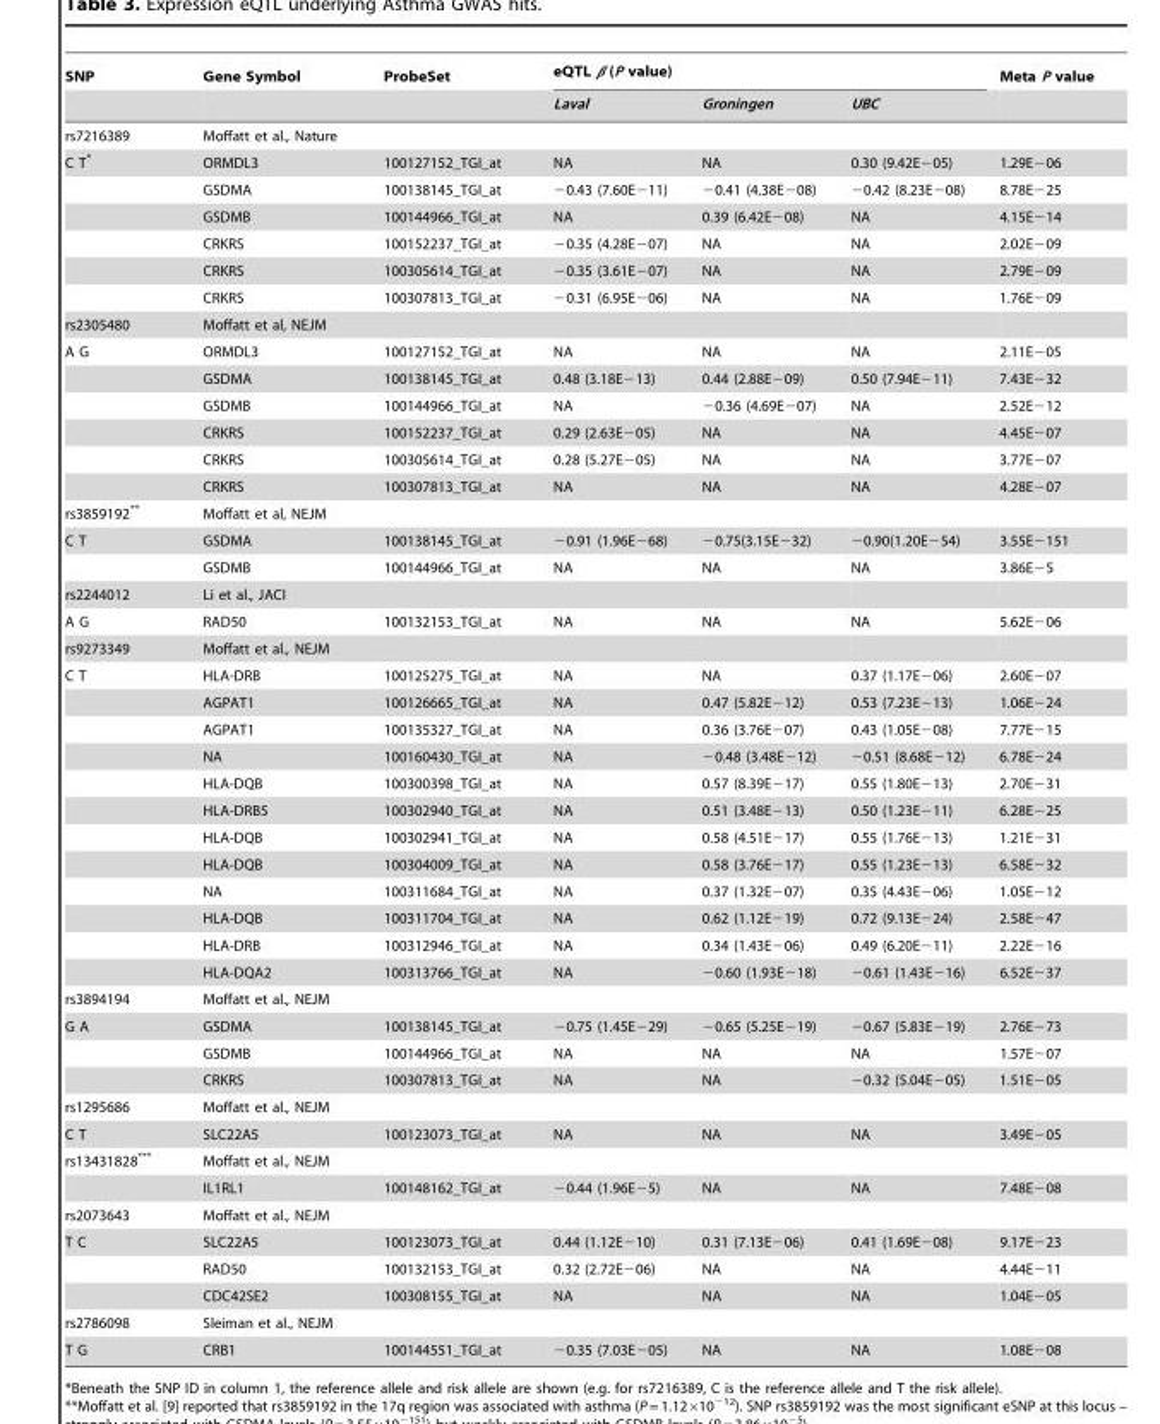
<table><thead><tr><td rowspan="2">SNP</td><td rowspan="2">Gene Symbol</td><td rowspan="2">ProbeSet</td><td colspan="3">eQTL β (P value)</td><td rowspan="2">Meta P value</td></tr><tr><td>Laval</td><td>Groningen</td><td>UBC</td></tr></thead><tbody><tr><td>rs7216389</td><td>Moffatt et al., Nature</td><td></td><td></td><td></td><td></td><td></td></tr><tr><td rowspan="6">C T*</td><td>ORMDL3</td><td>100127152_TGI_at</td><td>NA</td><td>NA</td><td>0.30 (9.42E−05)</td><td>1.29E−06</td></tr><tr><td>GSDMA</td><td>100138145_TGI_at</td><td>−0.43 (7.60E−11)</td><td>−0.41 (4.38E−08)</td><td>−0.42 (8.23E−08)</td><td>8.78E−25</td></tr><tr><td>GSDMB</td><td>100144966_TGI_at</td><td>NA</td><td>0.39 (6.42E−08)</td><td>NA</td><td>4.15E−14</td></tr><tr><td>CRKRS</td><td>100152237_TGI_at</td><td>−0.35 (4.28E−07)</td><td>NA</td><td>NA</td><td>2.02E−09</td></tr><tr><td>CRKRS</td><td>100305614_TGI_at</td><td>−0.35 (3.61E−07)</td><td>NA</td><td>NA</td><td>2.79E−09</td></tr><tr><td>CRKRS</td><td>100307813_TGI_at</td><td>−0.31 (6.95E−06)</td><td>NA</td><td>NA</td><td>1.76E−09</td></tr><tr><td>rs2305480</td><td>Moffatt et al, NEJM</td><td></td><td></td><td></td><td></td><td></td></tr><tr><td rowspan="6">A G</td><td>ORMDL3</td><td>100127152_TGI_at</td><td>NA</td><td>NA</td><td>NA</td><td>2.11E−05</td></tr><tr><td>GSDMA</td><td>100138145_TGI_at</td><td>0.48 (3.18E−13)</td><td>0.44 (2.88E−09)</td><td>0.50 (7.94E−11)</td><td>7.43E−32</td></tr><tr><td>GSDMB</td><td>100144966_TGI_at</td><td>NA</td><td>−0.36 (4.69E−07)</td><td>NA</td><td>2.52E−12</td></tr><tr><td>CRKRS</td><td>100152237_TGI_at</td><td>0.29 (2.63E−05)</td><td>NA</td><td>NA</td><td>4.45E−07</td></tr><tr><td>CRKRS</td><td>100305614_TGI_at</td><td>0.28 (5.27E−05)</td><td>NA</td><td>NA</td><td>3.77E−07</td></tr><tr><td>CRKRS</td><td>100307813_TGI_at</td><td>NA</td><td>NA</td><td>NA</td><td>4.28E−07</td></tr><tr><td>rs3859192**</td><td>Moffatt et al, NEJM</td><td></td><td></td><td></td><td></td><td></td></tr><tr><td rowspan="2">C T</td><td>GSDMA</td><td>100138145_TGI_at</td><td>−0.91 (1.96E−68)</td><td>−0.75(3.15E−32)</td><td>−0.90(1.20E−54)</td><td>3.55E−151</td></tr><tr><td>GSDMB</td><td>100144966_TGI_at</td><td>NA</td><td>NA</td><td>NA</td><td>3.86E−5</td></tr><tr><td>rs2244012</td><td>Li et al., JACI</td><td></td><td></td><td></td><td></td><td></td></tr><tr><td>A G</td><td>RAD50</td><td>100132153_TGI_at</td><td>NA</td><td>NA</td><td>NA</td><td>5.62E−06</td></tr><tr><td>rs9273349</td><td>Moffatt et al., NEJM</td><td></td><td></td><td></td><td></td><td></td></tr><tr><td rowspan="12">C T</td><td>HLA-DRB</td><td>100125275_TGI_at</td><td>NA</td><td>NA</td><td>0.37 (1.17E−06)</td><td>2.60E−07</td></tr><tr><td>AGPAT1</td><td>100126665_TGI_at</td><td>NA</td><td>0.47 (5.82E−12)</td><td>0.53 (7.23E−13)</td><td>1.06E−24</td></tr><tr><td>AGPAT1</td><td>100135327_TGI_at</td><td>NA</td><td>0.36 (3.76E−07)</td><td>0.43 (1.05E−08)</td><td>7.77E−15</td></tr><tr><td>NA</td><td>100160430_TGI_at</td><td>NA</td><td>−0.48 (3.48E−12)</td><td>−0.51 (8.68E−12)</td><td>6.78E−24</td></tr><tr><td>HLA-DQB</td><td>100300398_TGI_at</td><td>NA</td><td>0.57 (8.39E−17)</td><td>0.55 (1.80E−13)</td><td>2.70E−31</td></tr><tr><td>HLA-DRB5</td><td>100302940_TGI_at</td><td>NA</td><td>0.51 (3.48E−13)</td><td>0.50 (1.23E−11)</td><td>6.28E−25</td></tr><tr><td>HLA-DQB</td><td>100302941_TGI_at</td><td>NA</td><td>0.58 (4.51E−17)</td><td>0.55 (1.76E−13)</td><td>1.21E−31</td></tr><tr><td>HLA-DQB</td><td>100304009_TGI_at</td><td>NA</td><td>0.58 (3.76E−17)</td><td>0.55 (1.23E−13)</td><td>6.58E−32</td></tr><tr><td>NA</td><td>100311684_TGI_at</td><td>NA</td><td>0.37 (1.32E−07)</td><td>0.35 (4.43E−06)</td><td>1.05E−12</td></tr><tr><td>HLA-DQB</td><td>100311704_TGI_at</td><td>NA</td><td>0.62 (1.12E−19)</td><td>0.72 (9.13E−24)</td><td>2.58E−47</td></tr><tr><td>HLA-DRB</td><td>100312946_TGI_at</td><td>NA</td><td>0.34 (1.43E−06)</td><td>0.49 (6.20E−11)</td><td>2.22E−16</td></tr><tr><td>HLA-DQA2</td><td>100313766_TGI_at</td><td>NA</td><td>−0.60 (1.93E−18)</td><td>−0.61 (1.43E−16)</td><td>6.52E−37</td></tr><tr><td>rs3894194</td><td>Moffatt et al., NEJM</td><td></td><td></td><td></td><td></td><td></td></tr><tr><td rowspan="3">G A</td><td>GSDMA</td><td>100138145_TGI_at</td><td>−0.75 (1.45E−29)</td><td>−0.65 (5.25E−19)</td><td>−0.67 (5.83E−19)</td><td>2.76E−73</td></tr><tr><td>GSDMB</td><td>100144966_TGI_at</td><td>NA</td><td>NA</td><td>NA</td><td>1.57E−07</td></tr><tr><td>CRKRS</td><td>100307813_TGI_at</td><td>NA</td><td>NA</td><td>−0.32 (5.04E−05)</td><td>1.51E−05</td></tr><tr><td>rs1295686</td><td>Moffatt et al., NEJM</td><td></td><td></td><td></td><td></td><td></td></tr><tr><td>C T</td><td>SLC22A5</td><td>100123073_TGI_at</td><td>NA</td><td>NA</td><td>NA</td><td>3.49E−05</td></tr><tr><td rowspan="2">rs13431828***</td><td>Moffatt et al., NEJM</td><td></td><td></td><td></td><td></td><td></td></tr><tr><td>IL1RL1</td><td>100148162_TGI_at</td><td>−0.44 (1.96E−5)</td><td>NA</td><td>NA</td><td>7.48E−08</td></tr><tr><td>rs2073643</td><td>Moffatt et al., NEJM</td><td></td><td></td><td></td><td></td><td></td></tr><tr><td rowspan="3">T C</td><td>SLC22A5</td><td>100123073_TGI_at</td><td>0.44 (1.12E−10)</td><td>0.31 (7.13E−06)</td><td>0.41 (1.69E−08)</td><td>9.17E−23</td></tr><tr><td>RAD50</td><td>100132153_TGI_at</td><td>0.32 (2.72E−06)</td><td>NA</td><td>NA</td><td>4.44E−11</td></tr><tr><td>CDC42SE2</td><td>100308155_TGI_at</td><td>NA</td><td>NA</td><td>NA</td><td>1.04E−05</td></tr><tr><td>rs2786098</td><td>Sleiman et al., NEJM</td><td></td><td></td><td></td><td></td><td></td></tr><tr><td>T G</td><td>CRB1</td><td>100144551_TGI_at</td><td>−0.35 (7.03E−05)</td><td>NA</td><td>NA</td><td>1.08E−08</td></tr></tbody></table>